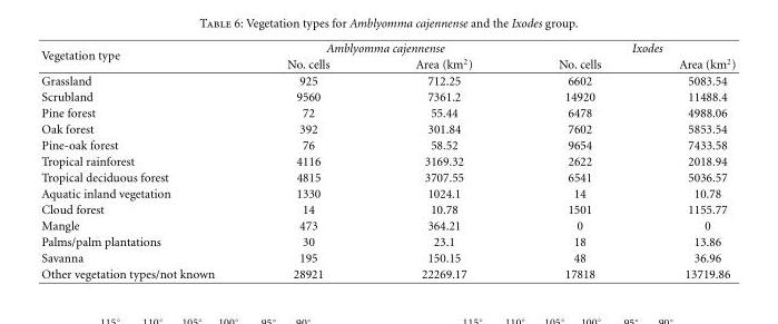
<table><thead><tr><td rowspan="2">Vegetation type</td><td colspan="2">Amblyomma cajennense</td><td colspan="2">Ixodes</td></tr><tr><td>No. cells</td><td>Area (km<sup>2</sup>)</td><td>No. cells</td><td>Area (km<sup>2</sup>)</td></tr></thead><tbody><tr><td>Grassland</td><td>925</td><td>712.25</td><td>6602</td><td>5083.54</td></tr><tr><td>Scrubland</td><td>9560</td><td>7361.2</td><td>14920</td><td>11488.4</td></tr><tr><td>Pine forest</td><td>72</td><td>55.44</td><td>6478</td><td>4988.06</td></tr><tr><td>Oak forest</td><td>392</td><td>301.84</td><td>7602</td><td>5853.54</td></tr><tr><td>Pine-oak forest</td><td>76</td><td>58.52</td><td>9654</td><td>7433.58</td></tr><tr><td>Tropical rainforest</td><td>4116</td><td>3169.32</td><td>2622</td><td>2018.94</td></tr><tr><td>Tropical deciduous forest</td><td>4815</td><td>3707.55</td><td>6541</td><td>5036.57</td></tr><tr><td>Aquatic inland vegetation</td><td>1330</td><td>1024.1</td><td>14</td><td>10.78</td></tr><tr><td>Cloud forest</td><td>14</td><td>10.78</td><td>1501</td><td>1155.77</td></tr><tr><td>Mangle</td><td>473</td><td>364.21</td><td>0</td><td>0</td></tr><tr><td>Palms/palm plantations</td><td>30</td><td>23.1</td><td>18</td><td>13.86</td></tr><tr><td>Savanna</td><td>195</td><td>150.15</td><td>48</td><td>36.96</td></tr><tr><td>Other vegetation types/not known</td><td>28921</td><td>22269.17</td><td>17818</td><td>13719.86</td></tr></tbody></table>